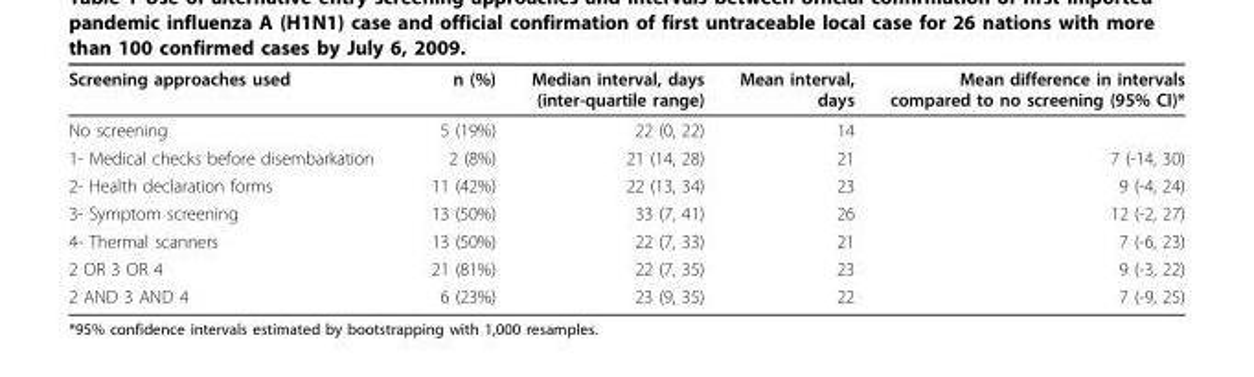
<table><thead><tr><td>Screening approaches used</td><td>n (%)</td><td>Median interval, days (inter-quartile range)</td><td>Mean interval, days</td><td>Mean difference in intervals compared to no screening (95% CI)*</td></tr></thead><tbody><tr><td>No screening</td><td>5 (19%)</td><td>22 (0, 22)</td><td>14</td><td></td></tr><tr><td>1- Medical checks before disembarkation</td><td>2 (8%)</td><td>21 (14, 28)</td><td>21</td><td>7 (-14, 30)</td></tr><tr><td>2- Health declaration forms</td><td>11 (42%)</td><td>22 (13, 34)</td><td>23</td><td>9 (-4, 24)</td></tr><tr><td>3- Symptom screening</td><td>13 (50%)</td><td>33 (7, 41)</td><td>26</td><td>12 (-2, 27)</td></tr><tr><td>4- Thermal scanners</td><td>13 (50%)</td><td>22 (7, 33)</td><td>21</td><td>7 (-6, 23)</td></tr><tr><td>2 OR 3 OR 4</td><td>21 (81%)</td><td>22 (7, 35)</td><td>23</td><td>9 (-3, 22)</td></tr><tr><td>2 AND 3 AND 4</td><td>6 (23%)</td><td>23 (9, 35)</td><td>22</td><td>7 (-9, 25)</td></tr></tbody></table>